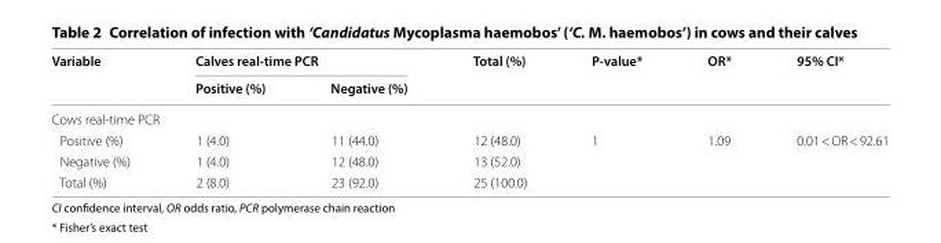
<table><thead><tr><td rowspan="2">Variable</td><td colspan="2">Calves real-time PCR</td><td rowspan="2">Total (%)</td><td rowspan="2">P-value*</td><td rowspan="2">OR*</td><td rowspan="2">95% CI*</td></tr><tr><td>Positive (%)</td><td>Negative (%)</td></tr></thead><tbody><tr><td colspan="7">Cows real-time PCR</td></tr><tr><td>Positive (%)</td><td>1 (4.0)</td><td>11 (44.0)</td><td>12 (48.0)</td><td>1</td><td>1.09</td><td>0.01 &lt; OR &lt; 92.61</td></tr><tr><td>Negative (%)</td><td>1 (4.0)</td><td>12 (48.0)</td><td>13 (52.0)</td><td></td><td></td><td></td></tr><tr><td>Total (%)</td><td>2 (8.0)</td><td>23 (92.0)</td><td>25 (100.0)</td><td></td><td></td><td></td></tr></tbody></table>